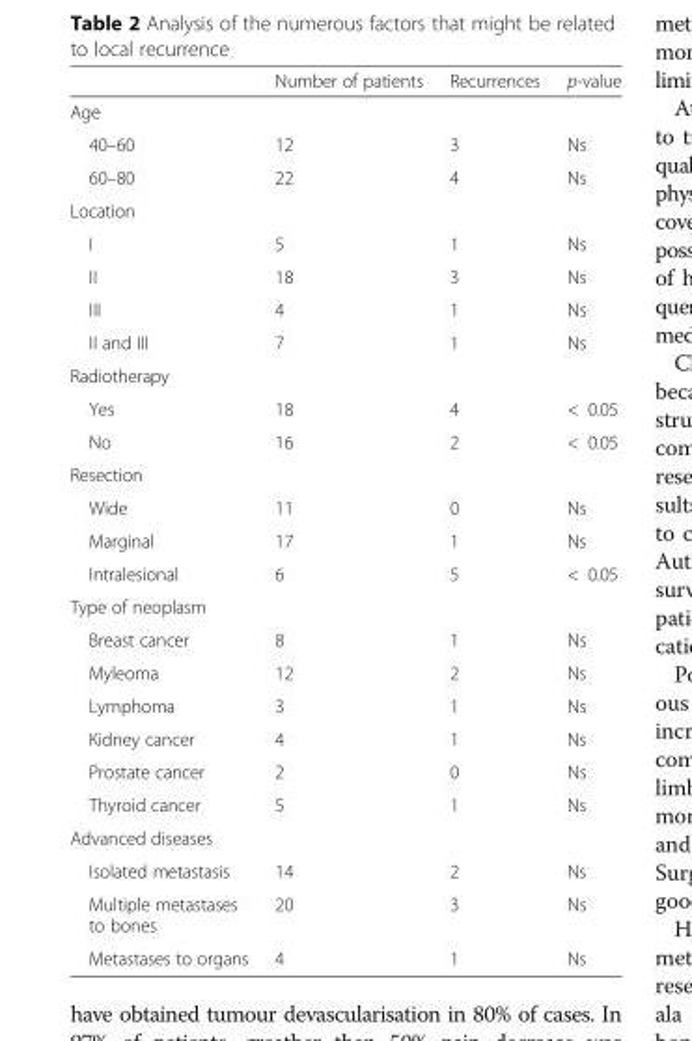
<table><thead><tr><td></td><td>Number of patients</td><td>Recurrences</td><td>p-value</td></tr></thead><tbody><tr><td colspan="4">Age</td></tr><tr><td>40–60</td><td>12</td><td>3</td><td>Ns</td></tr><tr><td>60–80</td><td>22</td><td>4</td><td>Ns</td></tr><tr><td colspan="4">Location</td></tr><tr><td>I</td><td>5</td><td>1</td><td>Ns</td></tr><tr><td>II</td><td>18</td><td>3</td><td>Ns</td></tr><tr><td>III</td><td>4</td><td>1</td><td>Ns</td></tr><tr><td>II and III</td><td>7</td><td>1</td><td>Ns</td></tr><tr><td colspan="4">Radiotherapy</td></tr><tr><td>Yes</td><td>18</td><td>4</td><td>&lt; 0.05</td></tr><tr><td>No</td><td>16</td><td>2</td><td>&lt; 0.05</td></tr><tr><td colspan="4">Resection</td></tr><tr><td>Wide</td><td>11</td><td>0</td><td>Ns</td></tr><tr><td>Marginal</td><td>17</td><td>1</td><td>Ns</td></tr><tr><td>Intralesional</td><td>6</td><td>5</td><td>&lt; 0.05</td></tr><tr><td colspan="4">Type of neoplasm</td></tr><tr><td>Breast cancer</td><td>8</td><td>1</td><td>Ns</td></tr><tr><td>Myleoma</td><td>12</td><td>2</td><td>Ns</td></tr><tr><td>Lymphoma</td><td>3</td><td>1</td><td>Ns</td></tr><tr><td>Kidney cancer</td><td>4</td><td>1</td><td>Ns</td></tr><tr><td>Prostate cancer</td><td>2</td><td>0</td><td>Ns</td></tr><tr><td>Thyroid cancer</td><td>5</td><td>1</td><td>Ns</td></tr><tr><td colspan="4">Advanced diseases</td></tr><tr><td>Isolated metastasis</td><td>14</td><td>2</td><td>Ns</td></tr><tr><td>Multiple metastases to bones</td><td>20</td><td>3</td><td>Ns</td></tr><tr><td>Metastases to organs</td><td>4</td><td>1</td><td>Ns</td></tr></tbody></table>